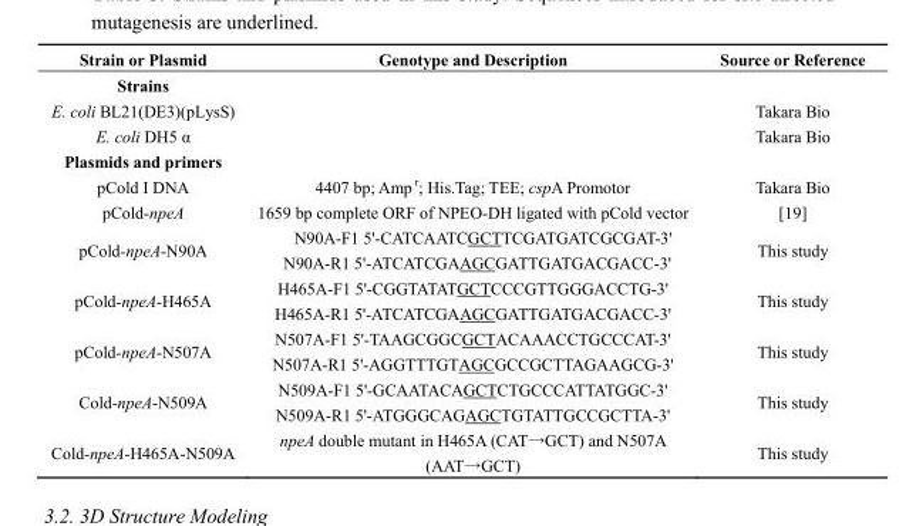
<table><thead><tr><td>Strain or Plasmid</td><td>Genotype and Description</td><td>Source or Reference</td></tr></thead><tbody><tr><td colspan="3">Strains</td></tr><tr><td>E. coli BL21(DE3)(pLysS)</td><td></td><td>Takara Bio</td></tr><tr><td>E. coli DH5 α</td><td></td><td>Takara Bio</td></tr><tr><td colspan="3">Plasmids and primers</td></tr><tr><td>pCold I DNA</td><td>4407 bp; Amp <sup>r</sup>; His.Tag; TEE; cspA Promotor</td><td>Takara Bio</td></tr><tr><td>pCold-npeA</td><td>1659 bp complete ORF of NPEO-DH ligated with pCold vector</td><td>[19]</td></tr><tr><td>pCold-npeA-N90A</td><td>N90A-F1 5&#x27;-CATCAATCGCTTCGATGATCGCGAT-3&#x27; N90A-R1 5&#x27;-ATCATCGAAGCGATTGATGACGACC-3&#x27;</td><td>This study</td></tr><tr><td>pCold-npeA-H465A</td><td>H465A-F1 5&#x27;-CGGTATATGCTCCCGTTGGGACCTG-3&#x27; H465A-R1 5&#x27;-ATCATCGAAGCGATTGATGACGACC-3&#x27;</td><td>This study</td></tr><tr><td>pCold-npeA-N507A</td><td>N507A-F1 5&#x27;-TAAGCGGCGCTACAAACCTGCCCAT-3&#x27; N507A-R1 5&#x27;-AGGTTTGTAGCGCCGCTTAGAAGCG-3&#x27;</td><td>This study</td></tr><tr><td>Cold-npeA-N509A</td><td>N509A-F1 5&#x27;-GCAATACAGCTCTGCCCATTATGGC-3&#x27; N509A-R1 5&#x27;-ATGGGCAGAGCTGTATTGCCGCTTA-3&#x27;</td><td>This study</td></tr><tr><td>Cold-npeA-H465A-N509A</td><td>npeA double mutant in H465A (CAT→GCT) and N507A (AAT→GCT)</td><td>This study</td></tr></tbody></table>